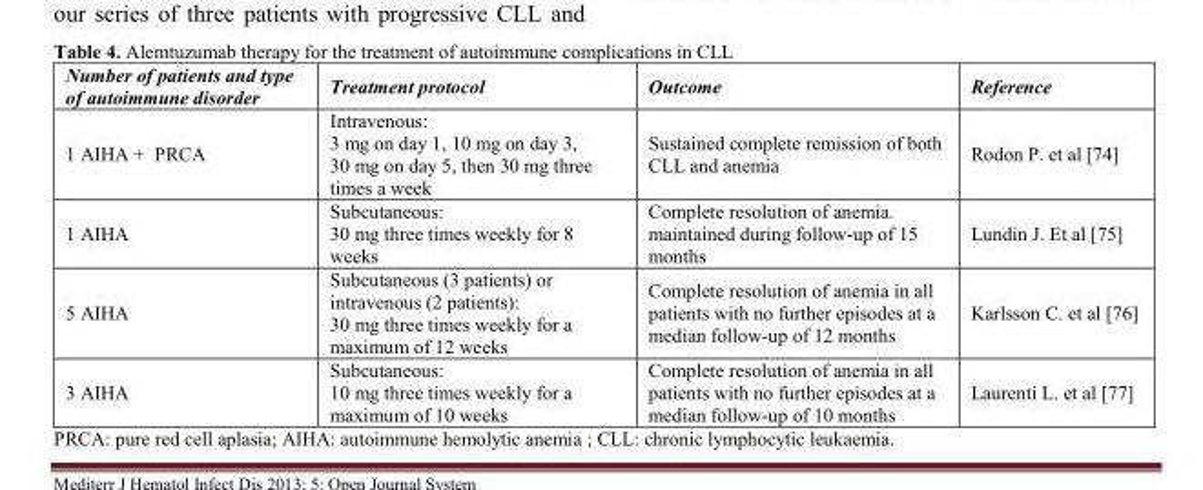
<table><thead><tr><td>Number of patients and type of autoimmune disorder</td><td>Treatment protocol</td><td>Outcome</td><td>Reference</td></tr></thead><tbody><tr><td>1 AIHA + PRCA</td><td>Intravenous: 3 mg on day 1, 10 mg on day 3, 30 mg on day 5, then 30 mg three times a week</td><td>Sustained complete remission of both CLL and anemia</td><td>Rodon P. et al [74]</td></tr><tr><td>1 AIHA</td><td>Subcutaneous: 30 mg three times weekly for 8 weeks</td><td>Complete resolution of anemia. maintained during follow-up of 15 months</td><td>Lundin J. Et al [75]</td></tr><tr><td>5 AIHA</td><td>Subcutaneous (3 patients) or intravenous (2 patients): 30 mg three times weekly for a maximum of 12 weeks</td><td>Complete resolution of anemia in all patients with no further episodes at a median follow-up of 12 months</td><td>Karlsson C. et al [76]</td></tr><tr><td>3 AIHA</td><td>Subcutaneous: 10 mg three times weekly for a maximum of 10 weeks</td><td>Complete resolution of anemia in all patients with no further episodes at a median follow-up of 10 months</td><td>Laurenti L. et al [77]</td></tr></tbody></table>